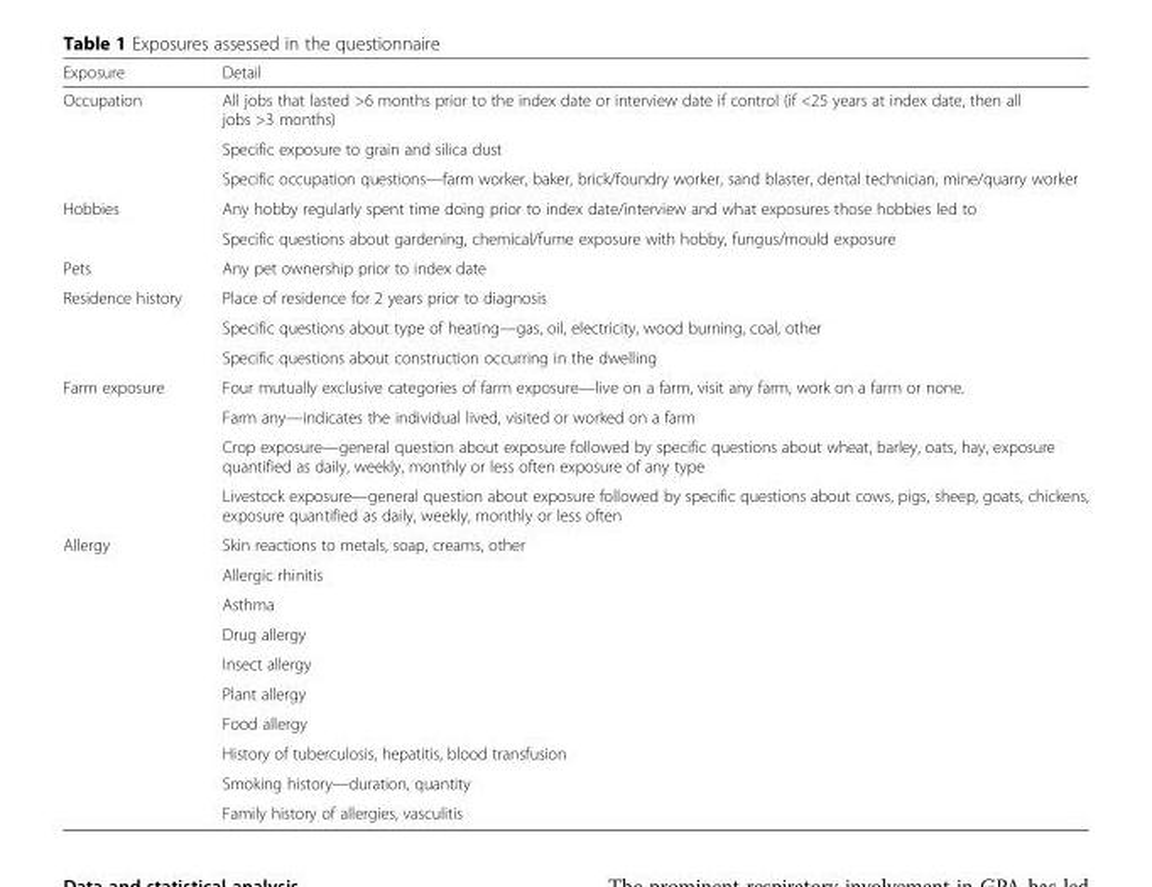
<table><thead><tr><td>Exposure</td><td>Detail</td></tr></thead><tbody><tr><td rowspan="3">Occupation</td><td>All jobs that lasted &gt;6 months prior to the index date or interview date if control (if &lt;25 years at index date, then all jobs &gt;3 months)</td></tr><tr><td>Specific exposure to grain and silica dust</td></tr><tr><td>Specific occupation questions—farm worker, baker, brick/foundry worker, sand blaster, dental technician, mine/quarry worker</td></tr><tr><td rowspan="2">Hobbies</td><td>Any hobby regularly spent time doing prior to index date/interview and what exposures those hobbies led to</td></tr><tr><td>Specific questions about gardening, chemical/fume exposure with hobby, fungus/mould exposure</td></tr><tr><td>Pets</td><td>Any pet ownership prior to index date</td></tr><tr><td rowspan="3">Residence history</td><td>Place of residence for 2 years prior to diagnosis</td></tr><tr><td>Specific questions about type of heating—gas, oil, electricity, wood burning, coal, other</td></tr><tr><td>Specific questions about construction occurring in the dwelling</td></tr><tr><td rowspan="4">Farm exposure</td><td>Four mutually exclusive categories of farm exposure—live on a farm, visit any farm, work on a farm or none.</td></tr><tr><td>Farm any—indicates the individual lived, visited or worked on a farm</td></tr><tr><td>Crop exposure—general question about exposure followed by specific questions about wheat, barley, oats, hay, exposure quantified as daily, weekly, monthly or less often exposure of any type</td></tr><tr><td>Livestock exposure—general question about exposure followed by specific questions about cows, pigs, sheep, goats, chickens, exposure quantified as daily, weekly, monthly or less often</td></tr><tr><td rowspan="10">Allergy</td><td>Skin reactions to metals, soap, creams, other</td></tr><tr><td>Allergic rhinitis</td></tr><tr><td>Asthma</td></tr><tr><td>Drug allergy</td></tr><tr><td>Insect allergy</td></tr><tr><td>Plant allergy</td></tr><tr><td>Food allergy</td></tr><tr><td>History of tuberculosis, hepatitis, blood transfusion</td></tr><tr><td>Smoking history—duration, quantity</td></tr><tr><td>Family history of allergies, vasculitis</td></tr></tbody></table>